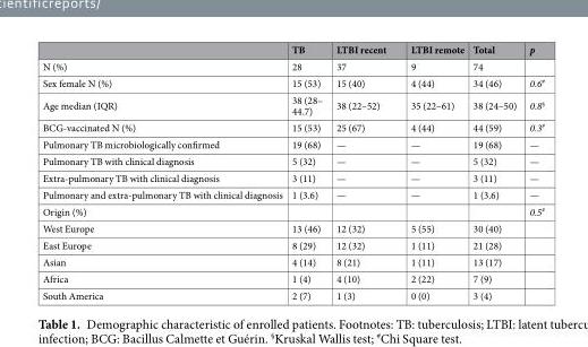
<table><thead><tr><td></td><td>TB</td><td>LTBI recent</td><td>LTBI remote</td><td>Total</td><td>p</td></tr></thead><tbody><tr><td>N (%)</td><td>28</td><td>37</td><td>9</td><td>74</td><td></td></tr><tr><td>Sex female N (%)</td><td>15 (53)</td><td>15 (40)</td><td>4 (44)</td><td>34 (46)</td><td>0.6<sup>#</sup></td></tr><tr><td>Age median (IQR)</td><td>38 (28– 44.7)</td><td>38 (22–52)</td><td>35 (22–61)</td><td>38 (24–50)</td><td>0.8<sup>§</sup></td></tr><tr><td>BCG-vaccinated N (%)</td><td>15 (53)</td><td>25 (67)</td><td>4 (44)</td><td>44 (59)</td><td>0.3<sup>#</sup></td></tr><tr><td>Pulmonary TB microbiologically confirmed</td><td>19 (68)</td><td>—</td><td>—</td><td>19 (68)</td><td>—</td></tr><tr><td>Pulmonary TB with clinical diagnosis</td><td>5 (32)</td><td>—</td><td>—</td><td>5 (32)</td><td>—</td></tr><tr><td>Extra-pulmonary TB with clinical diagnosis</td><td>3 (11)</td><td>—</td><td>—</td><td>3 (11)</td><td>—</td></tr><tr><td>Pulmonary and extra-pulmonary TB with clinical diagnosis</td><td>1 (3.6)</td><td>—</td><td>—</td><td>1 (3.6)</td><td>—</td></tr><tr><td>Origin (%)</td><td></td><td></td><td></td><td></td><td>0.5<sup>#</sup></td></tr><tr><td>West Europe</td><td>13 (46)</td><td>12 (32)</td><td>5 (55)</td><td>30 (40)</td><td></td></tr><tr><td>East Europe</td><td>8 (29)</td><td>12 (32)</td><td>1 (11)</td><td>21 (28)</td><td></td></tr><tr><td>Asian</td><td>4 (14)</td><td>8 (21)</td><td>1 (11)</td><td>13 (17)</td><td></td></tr><tr><td>Africa</td><td>1 (4)</td><td>4 (10)</td><td>2 (22)</td><td>7 (9)</td><td></td></tr><tr><td>South America</td><td>2 (7)</td><td>1 (3)</td><td>0 (0)</td><td>3 (4)</td><td></td></tr></tbody></table>